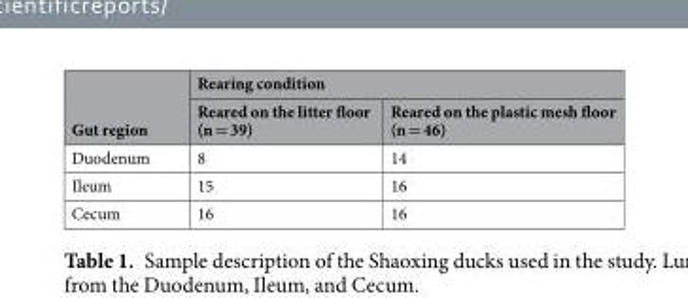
<table><thead><tr><td rowspan="2">Gut region</td><td colspan="2">Rearing condition</td></tr><tr><td>Reared on the litter floor (n = 39)</td><td>Reared on the plastic mesh floor (n = 46)</td></tr></thead><tbody><tr><td>Duodenum</td><td>8</td><td>14</td></tr><tr><td>Ileum</td><td>15</td><td>16</td></tr><tr><td>Cecum</td><td>16</td><td>16</td></tr></tbody></table>